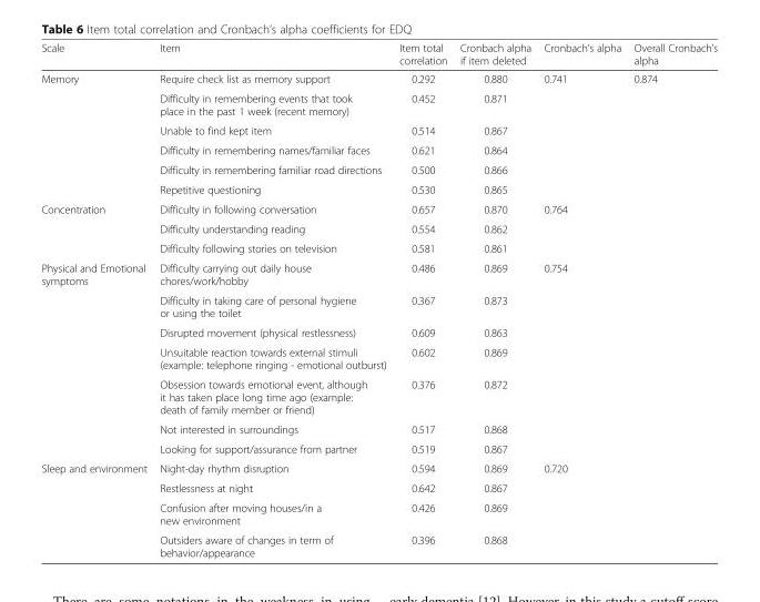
<table><thead><tr><td>Scale</td><td>Item</td><td>Item total correlation</td><td>Cronbach alpha if item deleted</td><td>Cronbach’s alpha</td><td>Overall Cronbach’s alpha</td></tr></thead><tbody><tr><td rowspan="6">Memory</td><td>Require check list as memory support</td><td>0.292</td><td>0.880</td><td rowspan="6">0.741</td><td rowspan="20">0.874</td></tr><tr><td>Difficulty in remembering events that took place in the past 1 week (recent memory)</td><td>0.452</td><td>0.871</td></tr><tr><td>Unable to find kept item</td><td>0.514</td><td>0.867</td></tr><tr><td>Difficulty in remembering names/familiar faces</td><td>0.621</td><td>0.864</td></tr><tr><td>Difficulty in remembering familiar road directions</td><td>0.500</td><td>0.866</td></tr><tr><td>Repetitive questioning</td><td>0.530</td><td>0.865</td></tr><tr><td rowspan="3">Concentration</td><td>Difficulty in following conversation</td><td>0.657</td><td>0.870</td><td rowspan="3">0.764</td></tr><tr><td>Difficulty understanding reading</td><td>0.554</td><td>0.862</td></tr><tr><td>Difficulty following stories on television</td><td>0.581</td><td>0.861</td></tr><tr><td rowspan="7">Physical and Emotional symptoms</td><td>Difficulty carrying out daily house chores/work/hobby</td><td>0.486</td><td>0.869</td><td rowspan="7">0.754</td></tr><tr><td>Difficulty in taking care of personal hygiene or using the toilet</td><td>0.367</td><td>0.873</td></tr><tr><td>Disrupted movement (physical restlessness)</td><td>0.609</td><td>0.863</td></tr><tr><td>Unsuitable reaction towards external stimuli (example: telephone ringing - emotional outburst)</td><td>0.602</td><td>0.869</td></tr><tr><td>Obsession towards emotional event, although it has taken place long time ago (example: death of family member or friend)</td><td>0.376</td><td>0.872</td></tr><tr><td>Not interested in surroundings</td><td>0.517</td><td>0.868</td></tr><tr><td>Looking for support/assurance from partner</td><td>0.519</td><td>0.867</td></tr><tr><td rowspan="4">Sleep and environment</td><td>Night-day rhythm disruption</td><td>0.594</td><td>0.869</td><td rowspan="4">0.720</td></tr><tr><td>Restlessness at night</td><td>0.642</td><td>0.867</td></tr><tr><td>Confusion after moving houses/in a new environment</td><td>0.426</td><td>0.869</td></tr><tr><td>Outsiders aware of changes in term of behavior/appearance</td><td>0.396</td><td>0.868</td></tr></tbody></table>